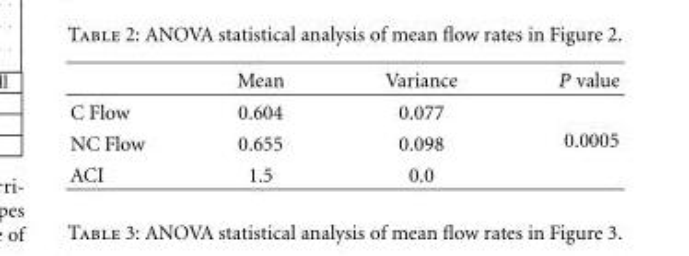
<table><thead><tr><td></td><td>Mean</td><td>Variance</td><td>P value</td></tr></thead><tbody><tr><td>C Flow</td><td>0.604</td><td>0.077</td><td rowspan="3">0.0005</td></tr><tr><td>NC Flow</td><td>0.655</td><td>0.098</td></tr><tr><td>ACI</td><td>1.5</td><td>0.0</td></tr></tbody></table>